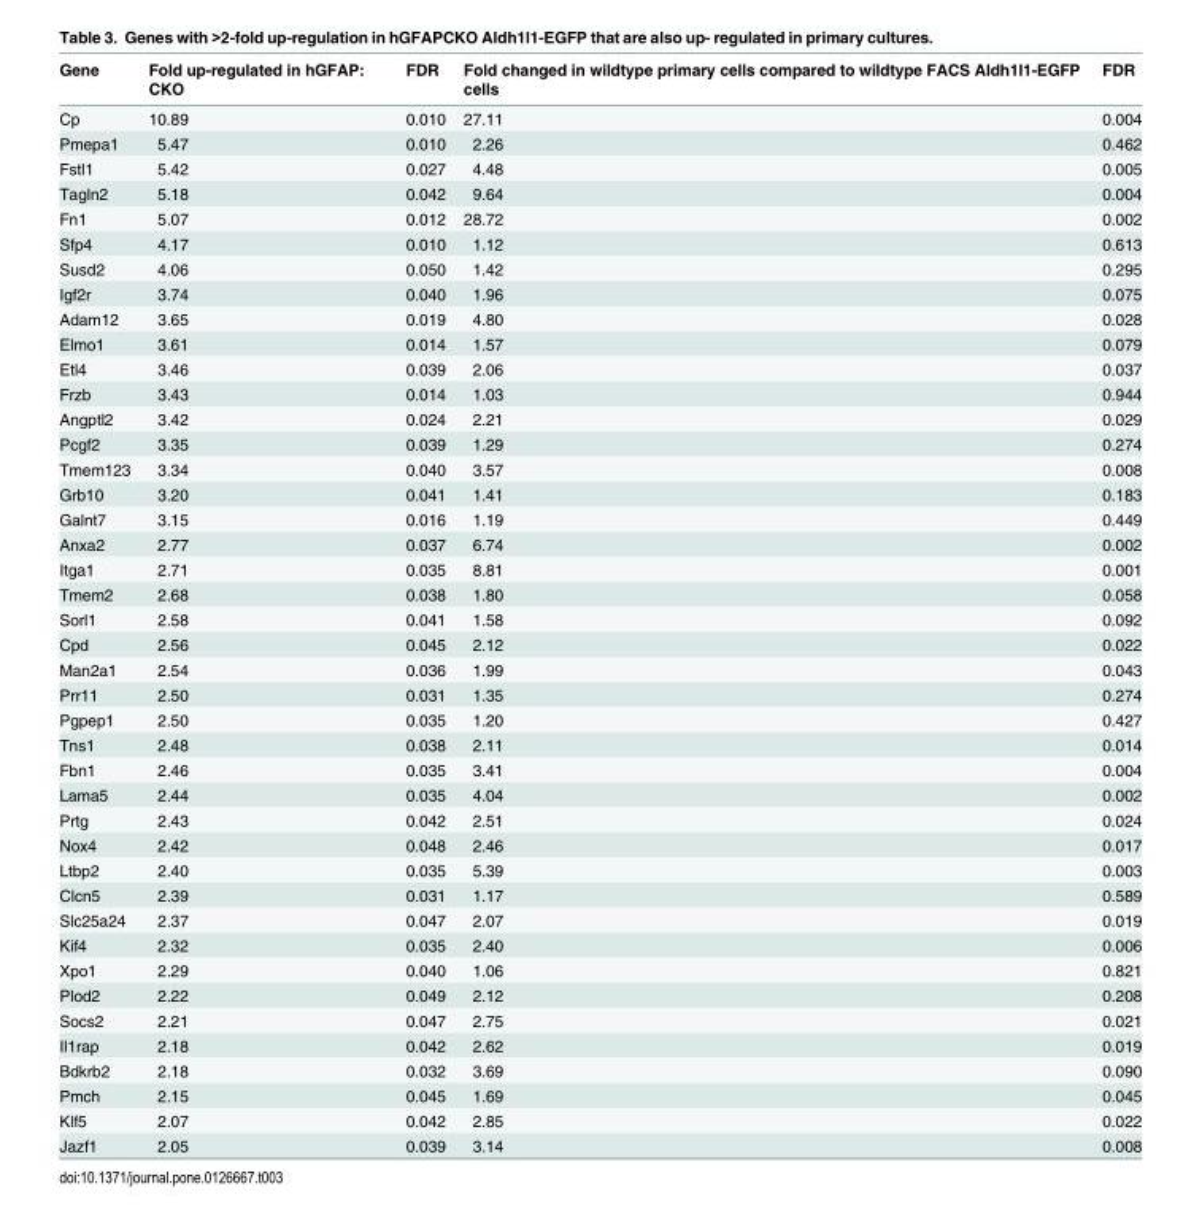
<table><thead><tr><td>Gene</td><td>Fold up-regulated in hGFAP: CKO</td><td>FDR</td><td>Fold changed in wildtype primary cells compared to wildtype FACS Aldh1l1-EGFP cells</td><td>FDR</td></tr></thead><tbody><tr><td>Cp</td><td>10.89</td><td>0.010</td><td>27.11</td><td>0.004</td></tr><tr><td>Pmepa1</td><td>5.47</td><td>0.010</td><td>2.26</td><td>0.462</td></tr><tr><td>Fstl1</td><td>5.42</td><td>0.027</td><td>4.48</td><td>0.005</td></tr><tr><td>Tagln2</td><td>5.18</td><td>0.042</td><td>9.64</td><td>0.004</td></tr><tr><td>Fn1</td><td>5.07</td><td>0.012</td><td>28.72</td><td>0.002</td></tr><tr><td>Sfp4</td><td>4.17</td><td>0.010</td><td>1.12</td><td>0.613</td></tr><tr><td>Susd2</td><td>4.06</td><td>0.050</td><td>1.42</td><td>0.295</td></tr><tr><td>Igf2r</td><td>3.74</td><td>0.040</td><td>1.96</td><td>0.075</td></tr><tr><td>Adam12</td><td>3.65</td><td>0.019</td><td>4.80</td><td>0.028</td></tr><tr><td>Elmo1</td><td>3.61</td><td>0.014</td><td>1.57</td><td>0.079</td></tr><tr><td>Etl4</td><td>3.46</td><td>0.039</td><td>2.06</td><td>0.037</td></tr><tr><td>Frzb</td><td>3.43</td><td>0.014</td><td>1.03</td><td>0.944</td></tr><tr><td>Angptl2</td><td>3.42</td><td>0.024</td><td>2.21</td><td>0.029</td></tr><tr><td>Pcgf2</td><td>3.35</td><td>0.039</td><td>1.29</td><td>0.274</td></tr><tr><td>Tmem123</td><td>3.34</td><td>0.040</td><td>3.57</td><td>0.008</td></tr><tr><td>Grb10</td><td>3.20</td><td>0.041</td><td>1.41</td><td>0.183</td></tr><tr><td>Galnt7</td><td>3.15</td><td>0.016</td><td>1.19</td><td>0.449</td></tr><tr><td>Anxa2</td><td>2.77</td><td>0.037</td><td>6.74</td><td>0.002</td></tr><tr><td>Itga1</td><td>2.71</td><td>0.035</td><td>8.81</td><td>0.001</td></tr><tr><td>Tmem2</td><td>2.68</td><td>0.038</td><td>1.80</td><td>0.058</td></tr><tr><td>Sorl1</td><td>2.58</td><td>0.041</td><td>1.58</td><td>0.092</td></tr><tr><td>Cpd</td><td>2.56</td><td>0.045</td><td>2.12</td><td>0.022</td></tr><tr><td>Man2a1</td><td>2.54</td><td>0.036</td><td>1.99</td><td>0.043</td></tr><tr><td>Prr11</td><td>2.50</td><td>0.031</td><td>1.35</td><td>0.274</td></tr><tr><td>Pgpep1</td><td>2.50</td><td>0.035</td><td>1.20</td><td>0.427</td></tr><tr><td>Tns1</td><td>2.48</td><td>0.038</td><td>2.11</td><td>0.014</td></tr><tr><td>Fbn1</td><td>2.46</td><td>0.035</td><td>3.41</td><td>0.004</td></tr><tr><td>Lama5</td><td>2.44</td><td>0.035</td><td>4.04</td><td>0.002</td></tr><tr><td>Prtg</td><td>2.43</td><td>0.042</td><td>2.51</td><td>0.024</td></tr><tr><td>Nox4</td><td>2.42</td><td>0.048</td><td>2.46</td><td>0.017</td></tr><tr><td>Ltbp2</td><td>2.40</td><td>0.035</td><td>5.39</td><td>0.003</td></tr><tr><td>Clcn5</td><td>2.39</td><td>0.031</td><td>1.17</td><td>0.589</td></tr><tr><td>Slc25a24</td><td>2.37</td><td>0.047</td><td>2.07</td><td>0.019</td></tr><tr><td>Kif4</td><td>2.32</td><td>0.035</td><td>2.40</td><td>0.006</td></tr><tr><td>Xpo1</td><td>2.29</td><td>0.040</td><td>1.06</td><td>0.821</td></tr><tr><td>Plod2</td><td>2.22</td><td>0.049</td><td>2.12</td><td>0.208</td></tr><tr><td>Socs2</td><td>2.21</td><td>0.047</td><td>2.75</td><td>0.021</td></tr><tr><td>Il1rap</td><td>2.18</td><td>0.042</td><td>2.62</td><td>0.019</td></tr><tr><td>Bdkrb2</td><td>2.18</td><td>0.032</td><td>3.69</td><td>0.090</td></tr><tr><td>Pmch</td><td>2.15</td><td>0.045</td><td>1.69</td><td>0.045</td></tr><tr><td>Klf5</td><td>2.07</td><td>0.042</td><td>2.85</td><td>0.022</td></tr><tr><td>Jazf1</td><td>2.05</td><td>0.039</td><td>3.14</td><td>0.008</td></tr></tbody></table>